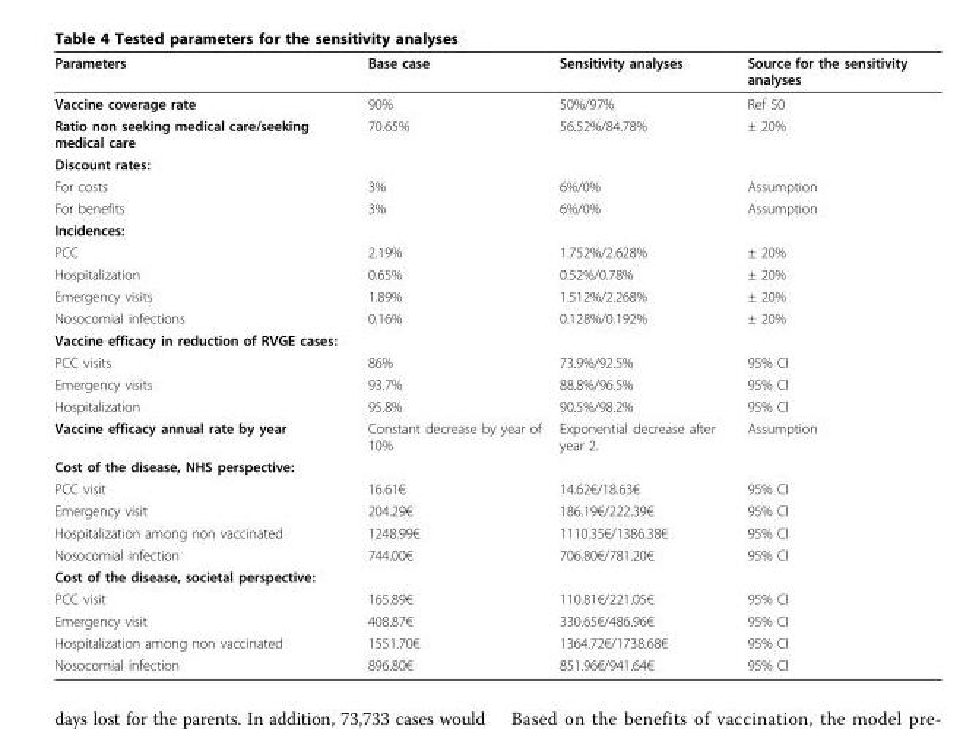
<table><thead><tr><td>Parameters</td><td>Base case</td><td>Sensitivity analyses</td><td>Source for the sensitivity analyses</td></tr></thead><tbody><tr><td>Vaccine coverage rate</td><td>90%</td><td>50%/97%</td><td>Ref 50</td></tr><tr><td>Ratio non seeking medical care/seeking medical care</td><td>70.65%</td><td>56.52%/84.78%</td><td>± 20%</td></tr><tr><td colspan="4">Discount rates:</td></tr><tr><td>For costs</td><td>3%</td><td>6%/0%</td><td>Assumption</td></tr><tr><td>For benefits</td><td>3%</td><td>6%/0%</td><td>Assumption</td></tr><tr><td colspan="4">Incidences:</td></tr><tr><td>PCC</td><td>2.19%</td><td>1.752%/2.628%</td><td>± 20%</td></tr><tr><td>Hospitalization</td><td>0.65%</td><td>0.52%/0.78%</td><td>± 20%</td></tr><tr><td>Emergency visits</td><td>1.89%</td><td>1.512%/2.268%</td><td>± 20%</td></tr><tr><td>Nosocomial infections</td><td>0.16%</td><td>0.128%/0.192%</td><td>± 20%</td></tr><tr><td colspan="4">Vaccine efficacy in reduction of RVGE cases:</td></tr><tr><td>PCC visits</td><td>86%</td><td>73.9%/92.5%</td><td>95% CI</td></tr><tr><td>Emergency visits</td><td>93.7%</td><td>88.8%/96.5%</td><td>95% CI</td></tr><tr><td>Hospitalization</td><td>95.8%</td><td>90.5%/98.2%</td><td>95% CI</td></tr><tr><td>Vaccine efficacy annual rate by year</td><td>Constant decrease by year of 10%</td><td>Exponential decrease after year 2.</td><td>Assumption</td></tr><tr><td colspan="4">Cost of the disease, NHS perspective:</td></tr><tr><td>PCC visit</td><td>16.61€</td><td>14.62€/18.63€</td><td>95% CI</td></tr><tr><td>Emergency visit</td><td>204.29€</td><td>186.19€/222.39€</td><td>95% CI</td></tr><tr><td>Hospitalization among non vaccinated</td><td>1248.99€</td><td>1110.35€/1386.38€</td><td>95% CI</td></tr><tr><td>Nosocomial infection</td><td>744.00€</td><td>706.80€/781.20€</td><td>95% CI</td></tr><tr><td colspan="4">Cost of the disease, societal perspective:</td></tr><tr><td>PCC visit</td><td>165.89€</td><td>110.81€/221.05€</td><td>95% CI</td></tr><tr><td>Emergency visit</td><td>408.87€</td><td>330.65€/486.96€</td><td>95% CI</td></tr><tr><td>Hospitalization among non vaccinated</td><td>1551.70€</td><td>1364.72€/1738.68€</td><td>95% CI</td></tr><tr><td>Nosocomial infection</td><td>896.80€</td><td>851.96€/941.64€</td><td>95% CI</td></tr></tbody></table>